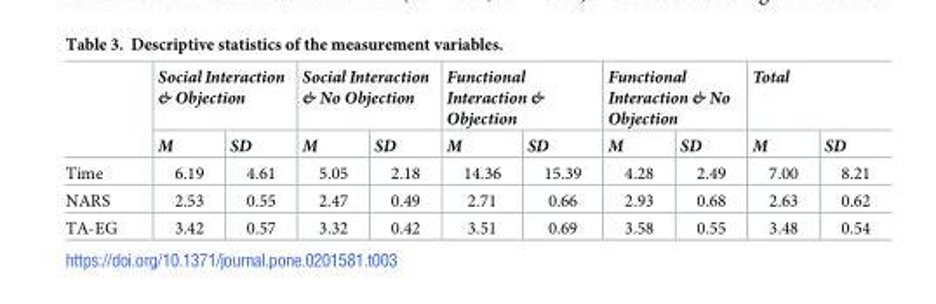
<table><thead><tr><td rowspan="2"></td><td colspan="2">Social Interaction &amp; Objection</td><td colspan="2">Social Interaction &amp; No Objection</td><td colspan="2">Functional Interaction &amp; Objection</td><td colspan="2">Functional Interaction &amp; No Objection</td><td colspan="2">Total</td></tr><tr><td>M</td><td>SD</td><td>M</td><td>SD</td><td>M</td><td>SD</td><td>M</td><td>SD</td><td>M</td><td>SD</td></tr></thead><tbody><tr><td>Time</td><td>6.19</td><td>4.61</td><td>5.05</td><td>2.18</td><td>14.36</td><td>15.39</td><td>4.28</td><td>2.49</td><td>7.00</td><td>8.21</td></tr><tr><td>NARS</td><td>2.53</td><td>0.55</td><td>2.47</td><td>0.49</td><td>2.71</td><td>0.66</td><td>2.93</td><td>0.68</td><td>2.63</td><td>0.62</td></tr><tr><td>TA-EG</td><td>3.42</td><td>0.57</td><td>3.32</td><td>0.42</td><td>3.51</td><td>0.69</td><td>3.58</td><td>0.55</td><td>3.48</td><td>0.54</td></tr></tbody></table>